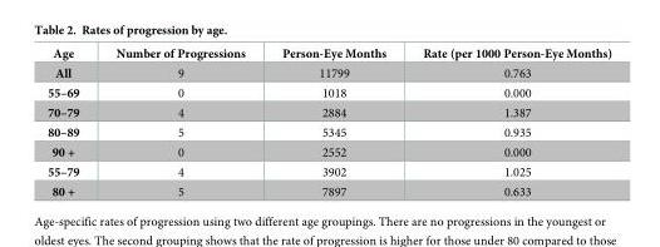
<table><thead><tr><td>Age</td><td>Number of Progressions</td><td>Person-Eye Months</td><td>Rate (per 1000 Person-Eye Months)</td></tr></thead><tbody><tr><td>All</td><td>9</td><td>11799</td><td>0.763</td></tr><tr><td>55–69</td><td>0</td><td>1018</td><td>0.000</td></tr><tr><td>70–79</td><td>4</td><td>2884</td><td>1.387</td></tr><tr><td>80–89</td><td>5</td><td>5345</td><td>0.935</td></tr><tr><td>90 +</td><td>0</td><td>2552</td><td>0.000</td></tr><tr><td>55–79</td><td>4</td><td>3902</td><td>1.025</td></tr><tr><td>80 +</td><td>5</td><td>7897</td><td>0.633</td></tr></tbody></table>